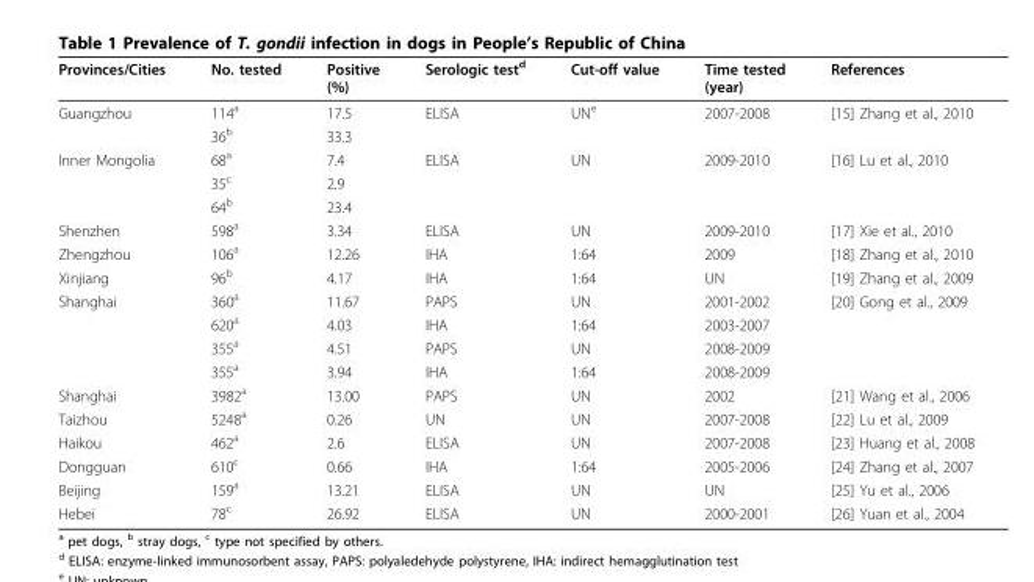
<table><thead><tr><td>Provinces/Cities</td><td>No. tested</td><td>Positive (%)</td><td>Serologic test<sup>d</sup></td><td>Cut-off value</td><td>Time tested (year)</td><td>References</td></tr></thead><tbody><tr><td rowspan="2">Guangzhou</td><td>114<sup>a</sup></td><td>17.5</td><td>ELISA</td><td>UN<sup>e</sup></td><td>2007-2008</td><td>[15] Zhang et al., 2010</td></tr><tr><td>36<sup>b</sup></td><td>33.3</td><td></td><td></td><td></td><td></td></tr><tr><td rowspan="3">Inner Mongolia</td><td>68<sup>a</sup></td><td>7.4</td><td>ELISA</td><td>UN</td><td>2009-2010</td><td>[16] Lu et al., 2010</td></tr><tr><td>35<sup>c</sup></td><td>2.9</td><td></td><td></td><td></td><td></td></tr><tr><td>64<sup>b</sup></td><td>23.4</td><td></td><td></td><td></td><td></td></tr><tr><td>Shenzhen</td><td>598<sup>a</sup></td><td>3.34</td><td>ELISA</td><td>UN</td><td>2009-2010</td><td>[17] Xie et al., 2010</td></tr><tr><td>Zhengzhou</td><td>106<sup>a</sup></td><td>12.26</td><td>IHA</td><td>1:64</td><td>2009</td><td>[18] Zhang et al., 2010</td></tr><tr><td>Xinjiang</td><td>96<sup>b</sup></td><td>4.17</td><td>IHA</td><td>1:64</td><td>UN</td><td>[19] Zhang et al., 2009</td></tr><tr><td rowspan="4">Shanghai</td><td>360<sup>a</sup></td><td>11.67</td><td>PAPS</td><td>UN</td><td>2001-2002</td><td>[20] Gong et al., 2009</td></tr><tr><td>620<sup>a</sup></td><td>4.03</td><td>IHA</td><td>1:64</td><td>2003-2007</td><td></td></tr><tr><td>355<sup>a</sup></td><td>4.51</td><td>PAPS</td><td>UN</td><td>2008-2009</td><td></td></tr><tr><td>355<sup>a</sup></td><td>3.94</td><td>IHA</td><td>1:64</td><td>2008-2009</td><td></td></tr><tr><td>Shanghai</td><td>3982<sup>a</sup></td><td>13.00</td><td>PAPS</td><td>UN</td><td>2002</td><td>[21] Wang et al., 2006</td></tr><tr><td>Taizhou</td><td>5248<sup>a</sup></td><td>0.26</td><td>UN</td><td>UN</td><td>2007-2008</td><td>[22] Lu et al., 2009</td></tr><tr><td>Haikou</td><td>462<sup>a</sup></td><td>2.6</td><td>ELISA</td><td>UN</td><td>2007-2008</td><td>[23] Huang et al., 2008</td></tr><tr><td>Dongguan</td><td>610<sup>c</sup></td><td>0.66</td><td>IHA</td><td>1:64</td><td>2005-2006</td><td>[24] Zhang et al., 2007</td></tr><tr><td>Beijing</td><td>159<sup>a</sup></td><td>13.21</td><td>ELISA</td><td>UN</td><td>UN</td><td>[25] Yu et al., 2006</td></tr><tr><td>Hebei</td><td>78<sup>c</sup></td><td>26.92</td><td>ELISA</td><td>UN</td><td>2000-2001</td><td>[26] Yuan et al., 2004</td></tr></tbody></table>